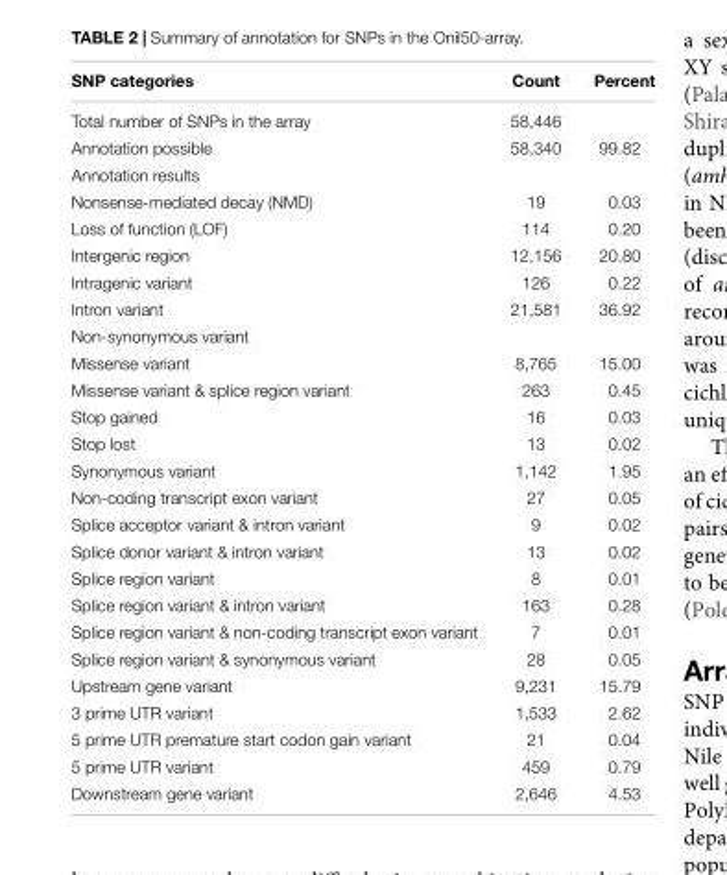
<table><thead><tr><td>SNP categories</td><td>Count</td><td>Percent</td></tr></thead><tbody><tr><td>Total number of SNPs in the array</td><td>58,446</td><td></td></tr><tr><td>Annotation possible</td><td>58,340</td><td>99.82</td></tr><tr><td colspan="3">Annotation results</td></tr><tr><td>Nonsense-mediated decay (NMD)</td><td>19</td><td>0.03</td></tr><tr><td>Loss of function (LOF)</td><td>114</td><td>0.20</td></tr><tr><td>Intergenic region</td><td>12,156</td><td>20.80</td></tr><tr><td>Intragenic variant</td><td>126</td><td>0.22</td></tr><tr><td>Intron variant</td><td>21,581</td><td>36.92</td></tr><tr><td colspan="3">Non-synonymous variant</td></tr><tr><td>Missense variant</td><td>8,765</td><td>15.00</td></tr><tr><td>Missense variant &amp; splice region variant</td><td>263</td><td>0.45</td></tr><tr><td>Stop gained</td><td>16</td><td>0.03</td></tr><tr><td>Stop lost</td><td>13</td><td>0.02</td></tr><tr><td>Synonymous variant</td><td>1,142</td><td>1.95</td></tr><tr><td>Non-coding transcript exon variant</td><td>27</td><td>0.05</td></tr><tr><td>Splice acceptor variant &amp; intron variant</td><td>9</td><td>0.02</td></tr><tr><td>Splice donor variant &amp; intron variant</td><td>13</td><td>0.02</td></tr><tr><td>Splice region variant</td><td>8</td><td>0.01</td></tr><tr><td>Splice region variant &amp; intron variant</td><td>163</td><td>0.28</td></tr><tr><td>Splice region variant &amp; non-coding transcript exon variant</td><td>7</td><td>0.01</td></tr><tr><td>Splice region variant &amp; synonymous variant</td><td>28</td><td>0.05</td></tr><tr><td>Upstream gene variant</td><td>9,231</td><td>15.79</td></tr><tr><td>3 prime UTR variant</td><td>1,533</td><td>2.62</td></tr><tr><td>5 prime UTR premature start codon gain variant</td><td>21</td><td>0.04</td></tr><tr><td>5 prime UTR variant</td><td>459</td><td>0.79</td></tr><tr><td>Downstream gene variant</td><td>2,646</td><td>4.53</td></tr></tbody></table>